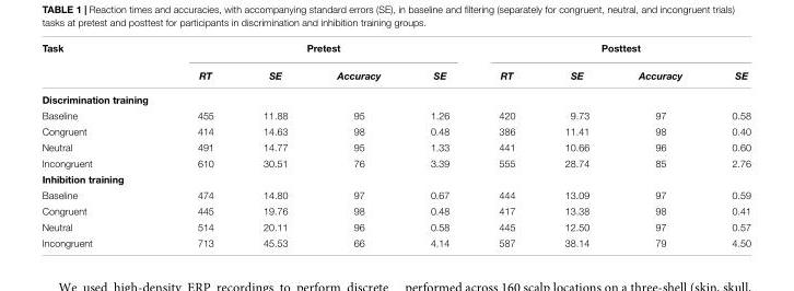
<table><thead><tr><td rowspan="2">Task</td><td colspan="4">Pretest</td><td colspan="4">Posttest</td></tr><tr><td>RT</td><td>SE</td><td>Accuracy</td><td>SE</td><td>RT</td><td>SE</td><td>Accuracy</td><td>SE</td></tr></thead><tbody><tr><td colspan="9">Discrimination training</td></tr><tr><td>Baseline</td><td>455</td><td>11.88</td><td>95</td><td>1.26</td><td>420</td><td>9.73</td><td>97</td><td>0.58</td></tr><tr><td>Congruent</td><td>414</td><td>14.63</td><td>98</td><td>0.48</td><td>386</td><td>11.41</td><td>98</td><td>0.40</td></tr><tr><td>Neutral</td><td>491</td><td>14.77</td><td>95</td><td>1.33</td><td>441</td><td>10.66</td><td>96</td><td>0.60</td></tr><tr><td>Incongruent</td><td>610</td><td>30.51</td><td>76</td><td>3.39</td><td>555</td><td>28.74</td><td>85</td><td>2.76</td></tr><tr><td colspan="9">Inhibition training</td></tr><tr><td>Baseline</td><td>474</td><td>14.80</td><td>97</td><td>0.67</td><td>444</td><td>13.09</td><td>97</td><td>0.59</td></tr><tr><td>Congruent</td><td>445</td><td>19.76</td><td>98</td><td>0.48</td><td>417</td><td>13.38</td><td>98</td><td>0.41</td></tr><tr><td>Neutral</td><td>514</td><td>20.11</td><td>96</td><td>0.58</td><td>445</td><td>12.50</td><td>97</td><td>0.57</td></tr><tr><td>Incongruent</td><td>713</td><td>45.53</td><td>66</td><td>4.14</td><td>587</td><td>38.14</td><td>79</td><td>4.50</td></tr></tbody></table>